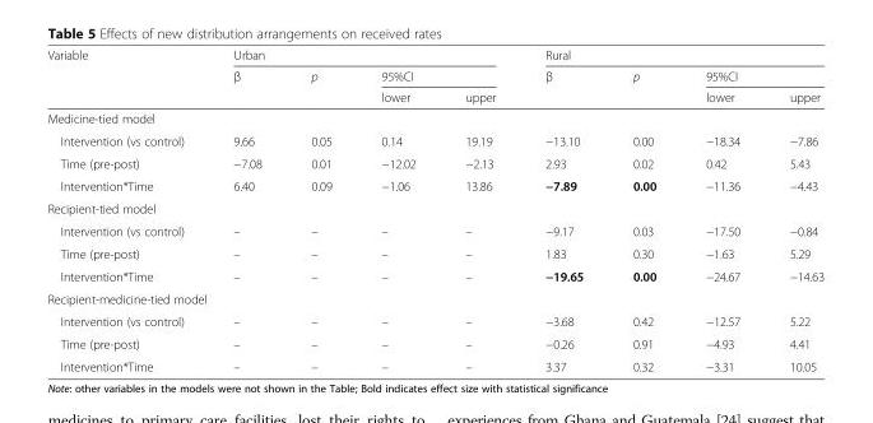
<table><thead><tr><td rowspan="3">Variable</td><td colspan="4">Urban</td><td colspan="4">Rural</td></tr><tr><td rowspan="2">β</td><td rowspan="2">p</td><td colspan="2">95%CI</td><td rowspan="2">β</td><td rowspan="2">p</td><td colspan="2">95%CI</td></tr><tr><td>lower</td><td>upper</td><td>lower</td><td>upper</td></tr></thead><tbody><tr><td colspan="9">Medicine-tied model</td></tr><tr><td>Intervention (vs control)</td><td>9.66</td><td>0.05</td><td>0.14</td><td>19.19</td><td>−13.10</td><td>0.00</td><td>−18.34</td><td>−7.86</td></tr><tr><td>Time (pre-post)</td><td>−7.08</td><td>0.01</td><td>−12.02</td><td>−2.13</td><td>2.93</td><td>0.02</td><td>0.42</td><td>5.43</td></tr><tr><td>Intervention*Time</td><td>6.40</td><td>0.09</td><td>−1.06</td><td>13.86</td><td>−7.89</td><td>0.00</td><td>−11.36</td><td>−4.43</td></tr><tr><td colspan="9">Recipient-tied model</td></tr><tr><td>Intervention (vs control)</td><td>–</td><td>–</td><td>–</td><td>–</td><td>−9.17</td><td>0.03</td><td>−17.50</td><td>−0.84</td></tr><tr><td>Time (pre-post)</td><td>–</td><td>–</td><td>–</td><td>–</td><td>1.83</td><td>0.30</td><td>−1.63</td><td>5.29</td></tr><tr><td>Intervention*Time</td><td>–</td><td>–</td><td>–</td><td>–</td><td>−19.65</td><td>0.00</td><td>−24.67</td><td>−14.63</td></tr><tr><td colspan="9">Recipient-medicine-tied model</td></tr><tr><td>Intervention (vs control)</td><td>–</td><td>–</td><td>–</td><td>–</td><td>−3.68</td><td>0.42</td><td>−12.57</td><td>5.22</td></tr><tr><td>Time (pre-post)</td><td>–</td><td>–</td><td>–</td><td>–</td><td>−0.26</td><td>0.91</td><td>−4.93</td><td>4.41</td></tr><tr><td>Intervention*Time</td><td>–</td><td>–</td><td>–</td><td>–</td><td>3.37</td><td>0.32</td><td>−3.31</td><td>10.05</td></tr></tbody></table>